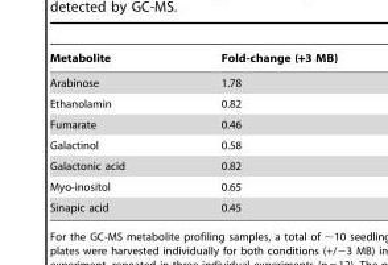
<table><thead><tr><td>Metabolite</td><td>Fold-change (+3 MB)</td></tr></thead><tbody><tr><td>Arabinose</td><td>1.78</td></tr><tr><td>Ethanolamin</td><td>0.82</td></tr><tr><td>Fumarate</td><td>0.46</td></tr><tr><td>Galactinol</td><td>0.58</td></tr><tr><td>Galactonic acid</td><td>0.82</td></tr><tr><td>Myo-inositol</td><td>0.65</td></tr><tr><td>Sinapic acid</td><td>0.45</td></tr></tbody></table>